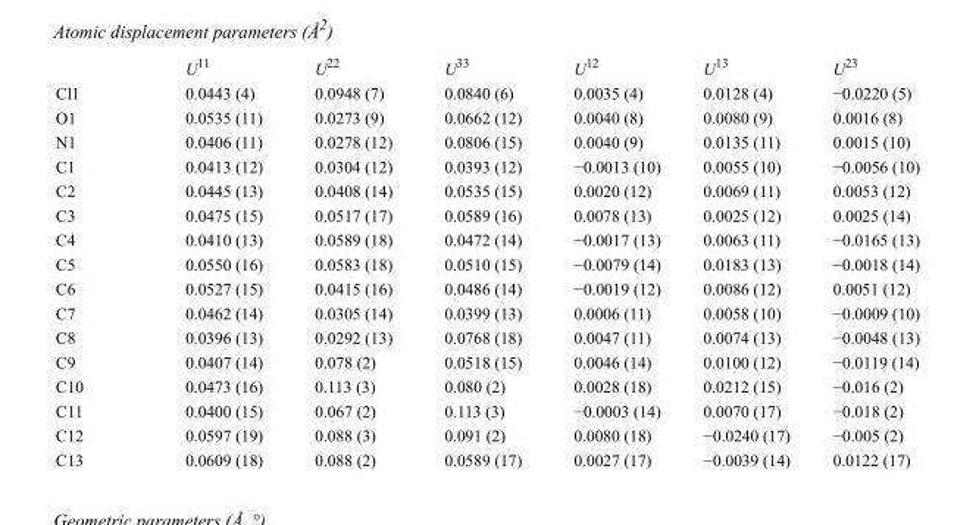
<table><thead><tr><td></td><td>U<sup>11</sup></td><td>U<sup>22</sup></td><td>U<sup>33</sup></td><td>U<sup>12</sup></td><td>U<sup>13</sup></td><td>U<sup>23</sup></td></tr></thead><tbody><tr><td>Cl1</td><td>0.0443 (4)</td><td>0.0948 (7)</td><td>0.0840 (6)</td><td>0.0035 (4)</td><td>0.0128 (4)</td><td>−0.0220 (5)</td></tr><tr><td>O1</td><td>0.0535 (11)</td><td>0.0273 (9)</td><td>0.0662 (12)</td><td>0.0040 (8)</td><td>0.0080 (9)</td><td>0.0016 (8)</td></tr><tr><td>N1</td><td>0.0406 (11)</td><td>0.0278 (12)</td><td>0.0806 (15)</td><td>0.0040 (9)</td><td>0.0135 (11)</td><td>0.0015 (10)</td></tr><tr><td>C1</td><td>0.0413 (12)</td><td>0.0304 (12)</td><td>0.0393 (12)</td><td>−0.0013 (10)</td><td>0.0055 (10)</td><td>−0.0056 (10)</td></tr><tr><td>C2</td><td>0.0445 (13)</td><td>0.0408 (14)</td><td>0.0535 (15)</td><td>0.0020 (12)</td><td>0.0069 (11)</td><td>0.0053 (12)</td></tr><tr><td>C3</td><td>0.0475 (15)</td><td>0.0517 (17)</td><td>0.0589 (16)</td><td>0.0078 (13)</td><td>0.0025 (12)</td><td>0.0025 (14)</td></tr><tr><td>C4</td><td>0.0410 (13)</td><td>0.0589 (18)</td><td>0.0472 (14)</td><td>−0.0017 (13)</td><td>0.0063 (11)</td><td>−0.0165 (13)</td></tr><tr><td>C5</td><td>0.0550 (16)</td><td>0.0583 (18)</td><td>0.0510 (15)</td><td>−0.0079 (14)</td><td>0.0183 (13)</td><td>−0.0018 (14)</td></tr><tr><td>C6</td><td>0.0527 (15)</td><td>0.0415 (16)</td><td>0.0486 (14)</td><td>−0.0019 (12)</td><td>0.0086 (12)</td><td>0.0051 (12)</td></tr><tr><td>C7</td><td>0.0462 (14)</td><td>0.0305 (14)</td><td>0.0399 (13)</td><td>0.0006 (11)</td><td>0.0058 (10)</td><td>−0.0009 (10)</td></tr><tr><td>C8</td><td>0.0396 (13)</td><td>0.0292 (13)</td><td>0.0768 (18)</td><td>0.0047 (11)</td><td>0.0074 (13)</td><td>−0.0048 (13)</td></tr><tr><td>C9</td><td>0.0407 (14)</td><td>0.078 (2)</td><td>0.0518 (15)</td><td>0.0046 (14)</td><td>0.0100 (12)</td><td>−0.0119 (14)</td></tr><tr><td>C10</td><td>0.0473 (16)</td><td>0.113 (3)</td><td>0.080 (2)</td><td>0.0028 (18)</td><td>0.0212 (15)</td><td>−0.016 (2)</td></tr><tr><td>C11</td><td>0.0400 (15)</td><td>0.067 (2)</td><td>0.113 (3)</td><td>−0.0003 (14)</td><td>0.0070 (17)</td><td>−0.018 (2)</td></tr><tr><td>C12</td><td>0.0597 (19)</td><td>0.088 (3)</td><td>0.091 (2)</td><td>0.0080 (18)</td><td>−0.0240 (17)</td><td>−0.005 (2)</td></tr><tr><td>C13</td><td>0.0609 (18)</td><td>0.088 (2)</td><td>0.0589 (17)</td><td>0.0027 (17)</td><td>−0.0039 (14)</td><td>0.0122 (17)</td></tr></tbody></table>